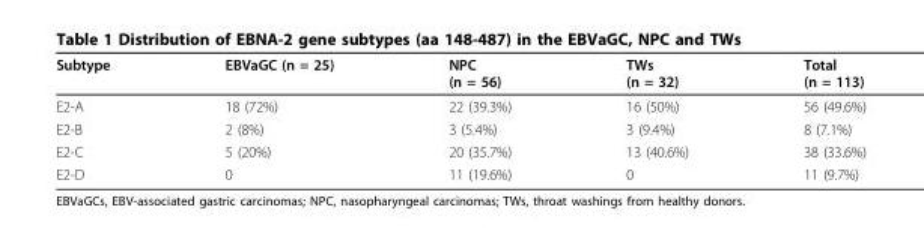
<table><thead><tr><td>Subtype</td><td>EBVaGC (n = 25)</td><td>NPC (n = 56)</td><td>TWs (n = 32)</td><td>Total (n = 113)</td></tr></thead><tbody><tr><td>E2-A</td><td>18 (72%)</td><td>22 (39.3%)</td><td>16 (50%)</td><td>56 (49.6%)</td></tr><tr><td>E2-B</td><td>2 (8%)</td><td>3 (5.4%)</td><td>3 (9.4%)</td><td>8 (7.1%)</td></tr><tr><td>E2-C</td><td>5 (20%)</td><td>20 (35.7%)</td><td>13 (40.6%)</td><td>38 (33.6%)</td></tr><tr><td>E2-D</td><td>0</td><td>11 (19.6%)</td><td>0</td><td>11 (9.7%)</td></tr></tbody></table>